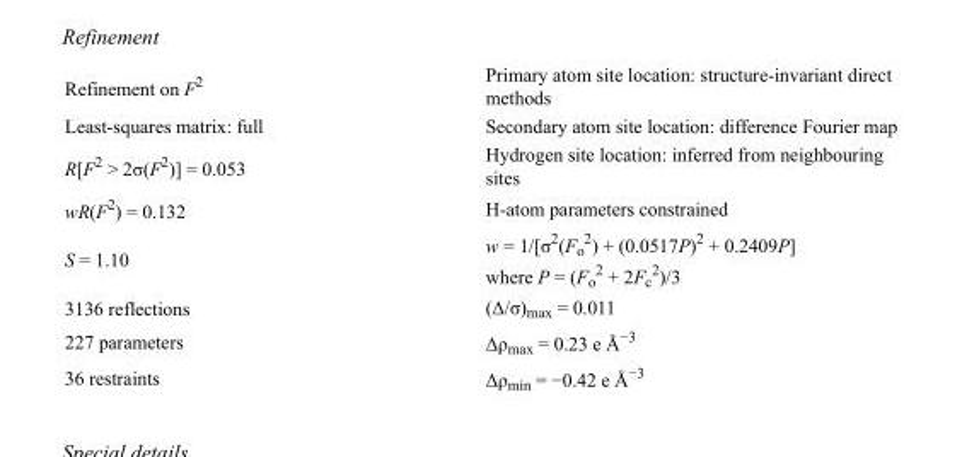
<table><tbody><tr><td>Refinement on F<sup>2</sup></td><td>Primary atom site location: structure-invariant direct methods</td></tr><tr><td>Least-squares matrix: full</td><td>Secondary atom site location: difference Fourier map</td></tr><tr><td>R[F<sup>2</sup> &gt; 2σ(F<sup>2</sup>)] = 0.053</td><td>Hydrogen site location: inferred from neighbouring sites</td></tr><tr><td>wR(F<sup>2</sup>) = 0.132</td><td>H-atom parameters constrained</td></tr><tr><td>S = 1.10</td><td>w = 1/[σ<sup>2</sup>(F<sub>o</sub> <sup>2</sup>) + (0.0517P)<sup>2</sup> + 0.2409P] where P = (F<sub>o</sub> <sup>2</sup> + 2F<sub>c</sub> <sup>2</sup>)/3</td></tr><tr><td>3136 reflections</td><td>(Δ/σ)<sub>max</sub> = 0.011</td></tr><tr><td>227 parameters</td><td>Δρ<sub>max</sub> = 0.23 e Å<sup>−3</sup></td></tr><tr><td>36 restraints</td><td>Δρ<sub>min</sub> = −0.42 e Å<sup>−3</sup></td></tr></tbody></table>